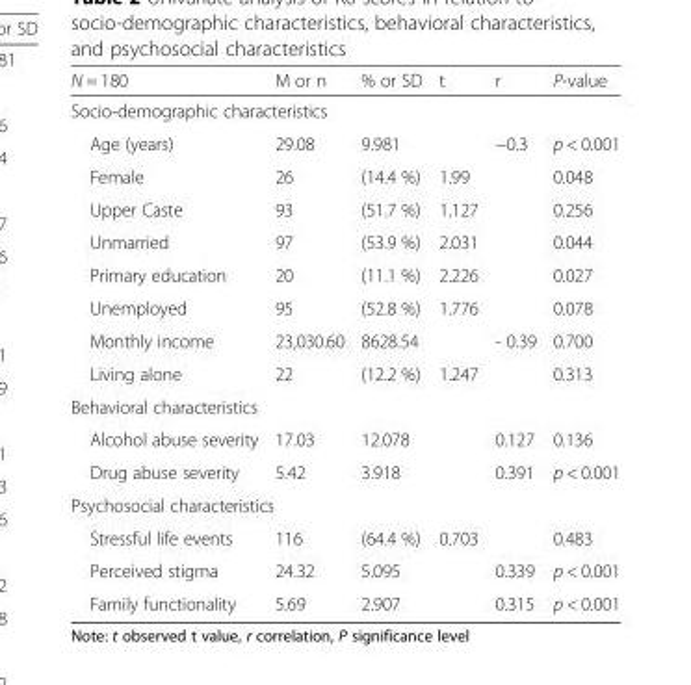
<table><thead><tr><td>N = 180</td><td>M or n</td><td>% or SD</td><td>t</td><td>r</td><td>P-value</td></tr></thead><tbody><tr><td colspan="6">Socio-demographic characteristics</td></tr><tr><td>Age (years)</td><td>29.08</td><td>9.981</td><td></td><td>−0.3</td><td>p &lt; 0.001</td></tr><tr><td>Female</td><td>26</td><td>(14.4 %)</td><td>1.99</td><td></td><td>0.048</td></tr><tr><td>Upper Caste</td><td>93</td><td>(51.7 %)</td><td>1.127</td><td></td><td>0.256</td></tr><tr><td>Unmarried</td><td>97</td><td>(53.9 %)</td><td>2.031</td><td></td><td>0.044</td></tr><tr><td>Primary education</td><td>20</td><td>(11.1 %)</td><td>2.226</td><td></td><td>0.027</td></tr><tr><td>Unemployed</td><td>95</td><td>(52.8 %)</td><td>1.776</td><td></td><td>0.078</td></tr><tr><td>Monthly income</td><td>23,030.60</td><td>8628.54</td><td></td><td>- 0.39</td><td>0.700</td></tr><tr><td>Living alone</td><td>22</td><td>(12.2 %)</td><td>1.247</td><td></td><td>0.313</td></tr><tr><td colspan="6">Behavioral characteristics</td></tr><tr><td>Alcohol abuse severity</td><td>17.03</td><td>12.078</td><td></td><td>0.127</td><td>0.136</td></tr><tr><td>Drug abuse severity</td><td>5.42</td><td>3.918</td><td></td><td>0.391</td><td>p &lt; 0.001</td></tr><tr><td colspan="6">Psychosocial characteristics</td></tr><tr><td>Stressful life events</td><td>116</td><td>(64.4 %)</td><td>0.703</td><td></td><td>0.483</td></tr><tr><td>Perceived stigma</td><td>24.32</td><td>5.095</td><td></td><td>0.339</td><td>p &lt; 0.001</td></tr><tr><td>Family functionality</td><td>5.69</td><td>2.907</td><td></td><td>0.315</td><td>p &lt; 0.001</td></tr></tbody></table>